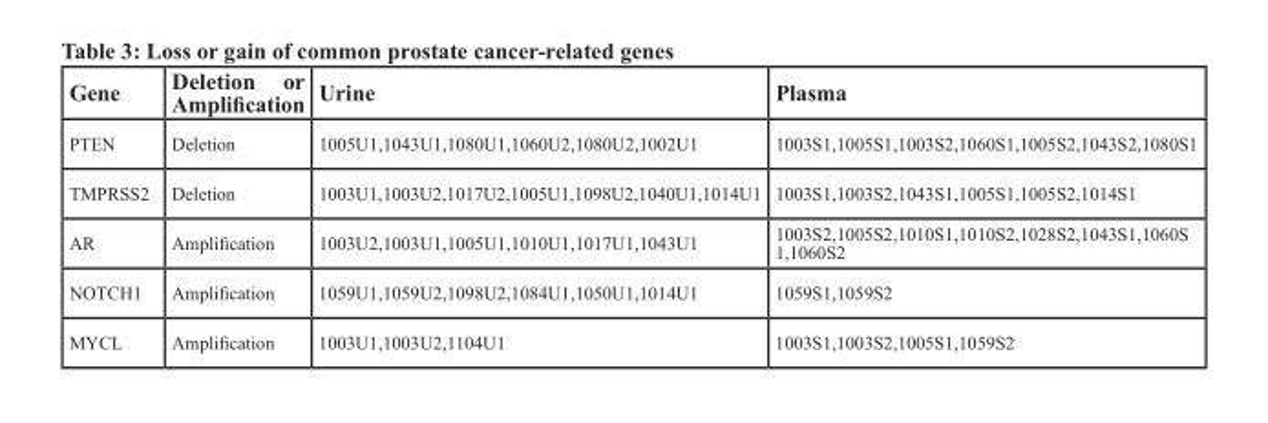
<table><thead><tr><td>Gene</td><td>Deletion or Amplification</td><td>Urine</td><td>Plasma</td></tr></thead><tbody><tr><td>PTEN</td><td>Deletion</td><td>1005U1,1043U1,1080U1,1060U2,1080U2,1002U1</td><td>1003S1,1005S1,1003S2,1060S1,1005S2,1043S2,1080S1</td></tr><tr><td>TMPRSS2</td><td>Deletion</td><td>1003U1,1003U2,1017U2,1005U1,1098U2,1040U1,1014U1</td><td>1003S1,1003S2,1043S1,1005S1,1005S2,1014S1</td></tr><tr><td>AR</td><td>Amplification</td><td>1003U2,1003U1,1005U1,1010U1,1017U1,1043U1</td><td>1003S2,1005S2,1010S1,1010S2,1028S2,1043S1,1060S 1,1060S2</td></tr><tr><td>NOTCH1</td><td>Amplification</td><td>1059U1,1059U2,1098U2,1084U1,1050U1,1014U1</td><td>1059S1,1059S2</td></tr><tr><td>MYCL</td><td>Amplification</td><td>1003U1,1003U2,1104U1</td><td>1003S1,1003S2,1005S1,1059S2</td></tr></tbody></table>